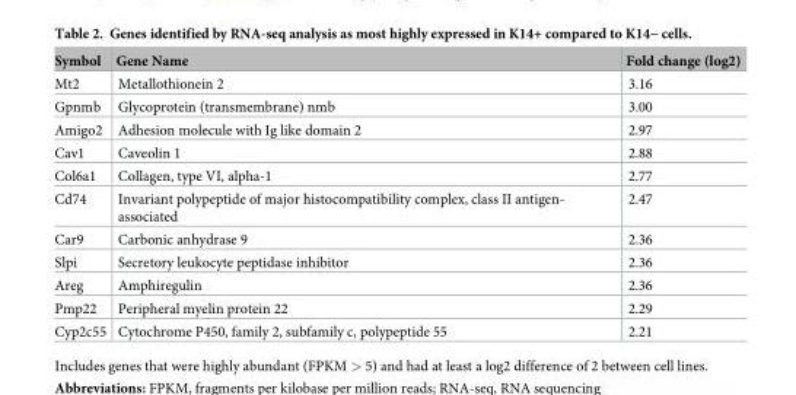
<table><thead><tr><td>Symbol</td><td>Gene Name</td><td>Fold change (log2)</td></tr></thead><tbody><tr><td>Mt2</td><td>Metallothionein 2</td><td>3.16</td></tr><tr><td>Gpnmb</td><td>Glycoprotein (transmembrane) nmb</td><td>3.00</td></tr><tr><td>Amigo2</td><td>Adhesion molecule with Ig like domain 2</td><td>2.97</td></tr><tr><td>Cav1</td><td>Caveolin 1</td><td>2.88</td></tr><tr><td>Col6a1</td><td>Collagen, type VI, alpha-1</td><td>2.77</td></tr><tr><td>Cd74</td><td>Invariant polypeptide of major histocompatibility complex, class II antigen- associated</td><td>2.47</td></tr><tr><td>Car9</td><td>Carbonic anhydrase 9</td><td>2.36</td></tr><tr><td>Slpi</td><td>Secretory leukocyte peptidase inhibitor</td><td>2.36</td></tr><tr><td>Areg</td><td>Amphiregulin</td><td>2.36</td></tr><tr><td>Pmp22</td><td>Peripheral myelin protein 22</td><td>2.29</td></tr><tr><td>Cyp2c55</td><td>Cytochrome P450, family 2, subfamily c, polypeptide 55</td><td>2.21</td></tr></tbody></table>